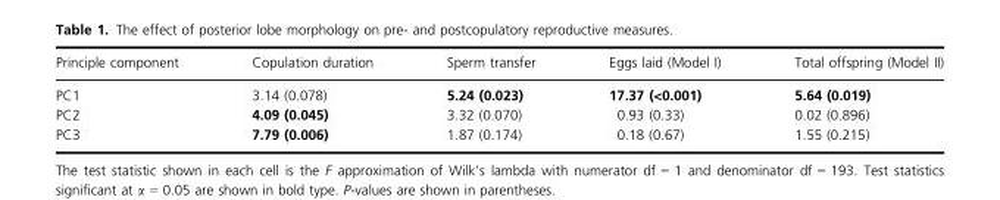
<table><thead><tr><td>Principle component</td><td>Copulation duration</td><td>Sperm transfer</td><td>Eggs laid (Model I)</td><td>Total offspring (Model II)</td></tr></thead><tbody><tr><td>PC1</td><td>3.14 (0.078)</td><td>5.24 (0.023)</td><td>17.37 (&lt;0.001)</td><td>5.64 (0.019)</td></tr><tr><td>PC2</td><td>4.09 (0.045)</td><td>3.32 (0.070)</td><td>0.93 (0.33)</td><td>0.02 (0.896)</td></tr><tr><td>PC3</td><td>7.79 (0.006)</td><td>1.87 (0.174)</td><td>0.18 (0.67)</td><td>1.55 (0.215)</td></tr></tbody></table>